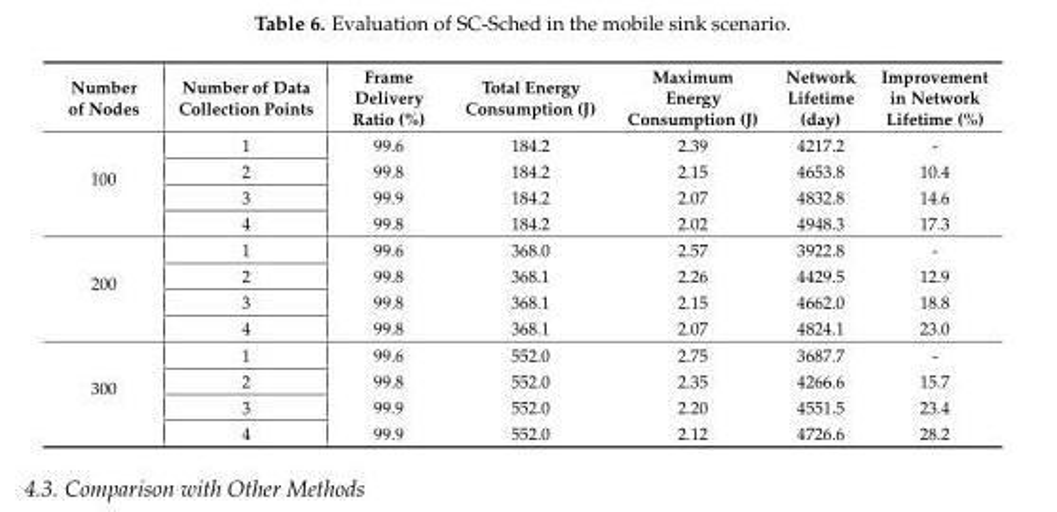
<table><thead><tr><td>Number of Nodes</td><td>Number of Data Collection Points</td><td>Frame Delivery Ratio (%)</td><td>Total Energy Consumption (J)</td><td>Maximum Energy Consumption (J)</td><td>Network Lifetime (day)</td><td>Improvement in Network Lifetime (%)</td></tr></thead><tbody><tr><td rowspan="4">100</td><td>1</td><td>99.6</td><td>184.2</td><td>2.39</td><td>4217.2</td><td>-</td></tr><tr><td>2</td><td>99.8</td><td>184.2</td><td>2.15</td><td>4653.8</td><td>10.4</td></tr><tr><td>3</td><td>99.9</td><td>184.2</td><td>2.07</td><td>4832.8</td><td>14.6</td></tr><tr><td>4</td><td>99.8</td><td>184.2</td><td>2.02</td><td>4948.3</td><td>17.3</td></tr><tr><td rowspan="4">200</td><td>1</td><td>99.6</td><td>368.0</td><td>2.57</td><td>3922.8</td><td>-</td></tr><tr><td>2</td><td>99.8</td><td>368.1</td><td>2.26</td><td>4429.5</td><td>12.9</td></tr><tr><td>3</td><td>99.8</td><td>368.1</td><td>2.15</td><td>4662.0</td><td>18.8</td></tr><tr><td>4</td><td>99.8</td><td>368.1</td><td>2.07</td><td>4824.1</td><td>23.0</td></tr><tr><td rowspan="4">300</td><td>1</td><td>99.6</td><td>552.0</td><td>2.75</td><td>3687.7</td><td>-</td></tr><tr><td>2</td><td>99.8</td><td>552.0</td><td>2.35</td><td>4266.6</td><td>15.7</td></tr><tr><td>3</td><td>99.9</td><td>552.0</td><td>2.20</td><td>4551.5</td><td>23.4</td></tr><tr><td>4</td><td>99.9</td><td>552.0</td><td>2.12</td><td>4726.6</td><td>28.2</td></tr></tbody></table>